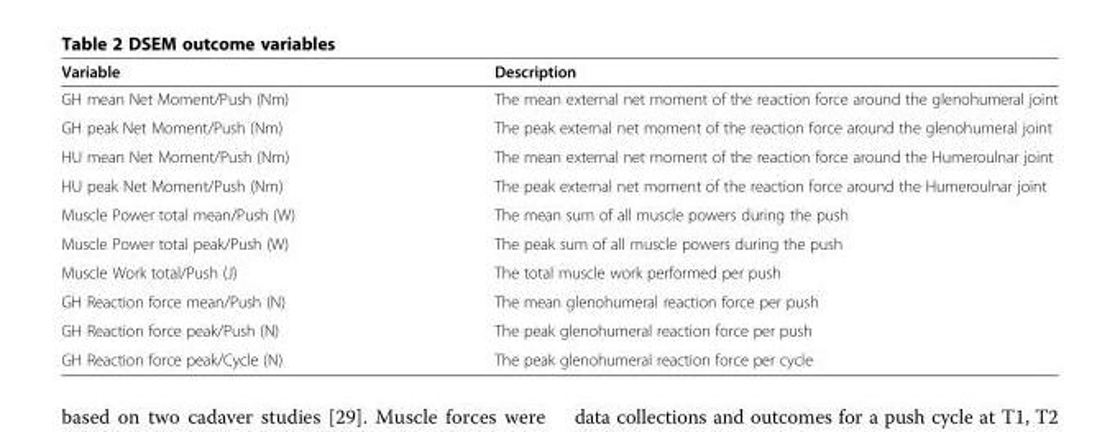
<table><thead><tr><td>Variable</td><td>Description</td></tr></thead><tbody><tr><td>GH mean Net Moment/Push (Nm)</td><td>The mean external net moment of the reaction force around the glenohumeral joint</td></tr><tr><td>GH peak Net Moment/Push (Nm)</td><td>The peak external net moment of the reaction force around the glenohumeral joint</td></tr><tr><td>HU mean Net Moment/Push (Nm)</td><td>The mean external net moment of the reaction force around the Humeroulnar joint</td></tr><tr><td>HU peak Net Moment/Push (Nm)</td><td>The peak external net moment of the reaction force around the Humeroulnar joint</td></tr><tr><td>Muscle Power total mean/Push (W)</td><td>The mean sum of all muscle powers during the push</td></tr><tr><td>Muscle Power total peak/Push (W)</td><td>The peak sum of all muscle powers during the push</td></tr><tr><td>Muscle Work total/Push (J)</td><td>The total muscle work performed per push</td></tr><tr><td>GH Reaction force mean/Push (N)</td><td>The mean glenohumeral reaction force per push</td></tr><tr><td>GH Reaction force peak/Push (N)</td><td>The peak glenohumeral reaction force per push</td></tr><tr><td>GH Reaction force peak/Cycle (N)</td><td>The peak glenohumeral reaction force per cycle</td></tr></tbody></table>